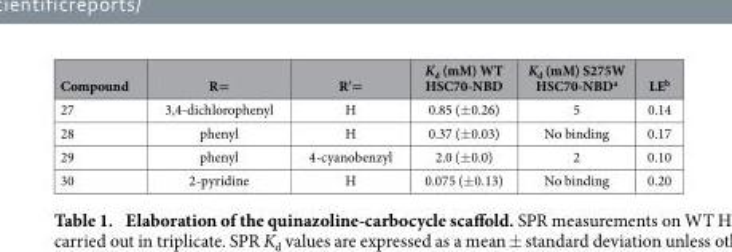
<table><thead><tr><td>Compound</td><td>R=</td><td>R′=</td><td>K<sub>d</sub> (mM) WT HSC70-NBD</td><td>K<sub>d</sub> (mM) S275W HSC70-NBD<sup>a</sup></td><td>LE<sup>b</sup></td></tr></thead><tbody><tr><td>27</td><td>3,4-dichlorophenyl</td><td>H</td><td>0.85 (± 0.26)</td><td>5</td><td>0.14</td></tr><tr><td>28</td><td>phenyl</td><td>H</td><td>0.37 (± 0.03)</td><td>No binding</td><td>0.17</td></tr><tr><td>29</td><td>phenyl</td><td>4-cyanobenzyl</td><td>2.0 (± 0.0)</td><td>2</td><td>0.10</td></tr><tr><td>30</td><td>2-pyridine</td><td>H</td><td>0.075 (± 0.13)</td><td>No binding</td><td>0.20</td></tr></tbody></table>